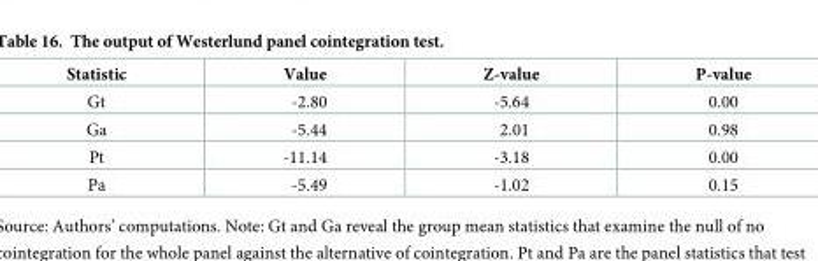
<table><thead><tr><td>Statistic</td><td>Value</td><td>Z-value</td><td>P-value</td></tr></thead><tbody><tr><td>Gt</td><td>-2.80</td><td>-5.64</td><td>0.00</td></tr><tr><td>Ga</td><td>-5.44</td><td>2.01</td><td>0.98</td></tr><tr><td>Pt</td><td>-11.14</td><td>-3.18</td><td>0.00</td></tr><tr><td>Pa</td><td>-5.49</td><td>-1.02</td><td>0.15</td></tr></tbody></table>